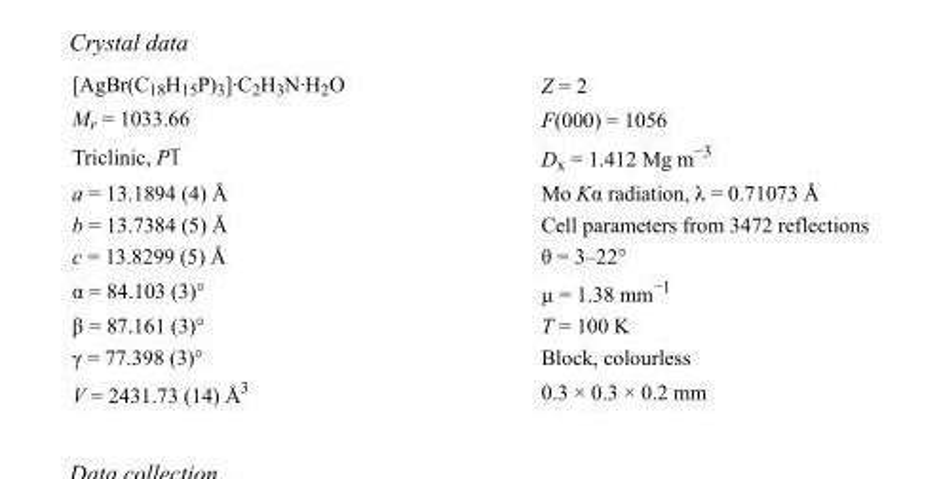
<table><tbody><tr><td>[AgBr(C<sub>18</sub>H<sub>15</sub>P)<sub>3</sub>]·C<sub>2</sub>H<sub>3</sub>N·H<sub>2</sub>O</td><td>Z = 2</td></tr><tr><td>M<sub>r</sub> = 1033.66</td><td>F(000) = 1056</td></tr><tr><td>Triclinic, P1</td><td>D<sub>x</sub> = 1.412 Mg m<sup>−3</sup></td></tr><tr><td>a = 13.1894 (4) Å</td><td>Mo Kα radiation, λ = 0.71073 Å</td></tr><tr><td>b = 13.7384 (5) Å</td><td>Cell parameters from 3472 reflections</td></tr><tr><td>c = 13.8299 (5) Å</td><td>θ = 3–22°</td></tr><tr><td>α = 84.103 (3)°</td><td>µ = 1.38 mm<sup>−1</sup></td></tr><tr><td>β = 87.161 (3)°</td><td>T = 100 K</td></tr><tr><td>γ = 77.398 (3)°</td><td>Block, colourless</td></tr><tr><td>V = 2431.73 (14) Å<sup>3</sup></td><td>0.3 × 0.3 × 0.2 mm</td></tr></tbody></table>